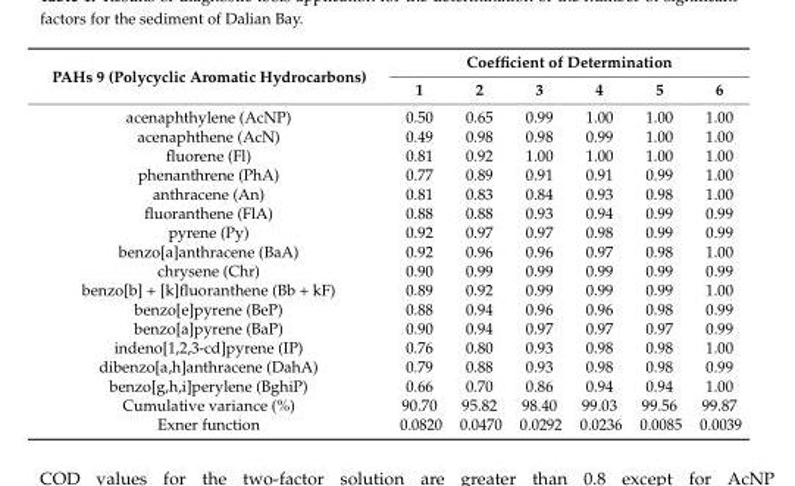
<table><thead><tr><td rowspan="2">PAHs 9 (Polycyclic Aromatic Hydrocarbons)</td><td colspan="6">Coefficient of Determination</td></tr><tr><td>1</td><td>2</td><td>3</td><td>4</td><td>5</td><td>6</td></tr></thead><tbody><tr><td>acenaphthylene (AcNP)</td><td>0.50</td><td>0.65</td><td>0.99</td><td>1.00</td><td>1.00</td><td>1.00</td></tr><tr><td>acenaphthene (AcN)</td><td>0.49</td><td>0.98</td><td>0.98</td><td>0.99</td><td>1.00</td><td>1.00</td></tr><tr><td>fluorene (Fl)</td><td>0.81</td><td>0.92</td><td>1.00</td><td>1.00</td><td>1.00</td><td>1.00</td></tr><tr><td>phenanthrene (PhA)</td><td>0.77</td><td>0.89</td><td>0.91</td><td>0.91</td><td>0.99</td><td>1.00</td></tr><tr><td>anthracene (An)</td><td>0.81</td><td>0.83</td><td>0.84</td><td>0.93</td><td>0.98</td><td>1.00</td></tr><tr><td>fluoranthene (FlA)</td><td>0.88</td><td>0.88</td><td>0.93</td><td>0.94</td><td>0.99</td><td>0.99</td></tr><tr><td>pyrene (Py)</td><td>0.92</td><td>0.97</td><td>0.97</td><td>0.98</td><td>0.99</td><td>0.99</td></tr><tr><td>benzo[a]anthracene (BaA)</td><td>0.92</td><td>0.96</td><td>0.96</td><td>0.97</td><td>0.98</td><td>1.00</td></tr><tr><td>chrysene (Chr)</td><td>0.90</td><td>0.99</td><td>0.99</td><td>0.99</td><td>0.99</td><td>0.99</td></tr><tr><td>benzo[b] + [k]fluoranthene (Bb + kF)</td><td>0.89</td><td>0.92</td><td>0.99</td><td>0.99</td><td>0.99</td><td>1.00</td></tr><tr><td>benzo[e]pyrene (BeP)</td><td>0.88</td><td>0.94</td><td>0.96</td><td>0.96</td><td>0.98</td><td>0.99</td></tr><tr><td>benzo[a]pyrene (BaP)</td><td>0.90</td><td>0.94</td><td>0.97</td><td>0.97</td><td>0.97</td><td>0.99</td></tr><tr><td>indeno[1,2,3-cd]pyrene (IP)</td><td>0.76</td><td>0.80</td><td>0.93</td><td>0.98</td><td>0.98</td><td>1.00</td></tr><tr><td>dibenzo[a,h]anthracene (DahA)</td><td>0.79</td><td>0.88</td><td>0.93</td><td>0.98</td><td>0.98</td><td>0.99</td></tr><tr><td>benzo[g,h,i]perylene (BghiP)</td><td>0.66</td><td>0.70</td><td>0.86</td><td>0.94</td><td>0.94</td><td>1.00</td></tr><tr><td>Cumulative variance (%)</td><td>90.70</td><td>95.82</td><td>98.40</td><td>99.03</td><td>99.56</td><td>99.87</td></tr><tr><td>Exner function</td><td>0.0820</td><td>0.0470</td><td>0.0292</td><td>0.0236</td><td>0.0085</td><td>0.0039</td></tr></tbody></table>